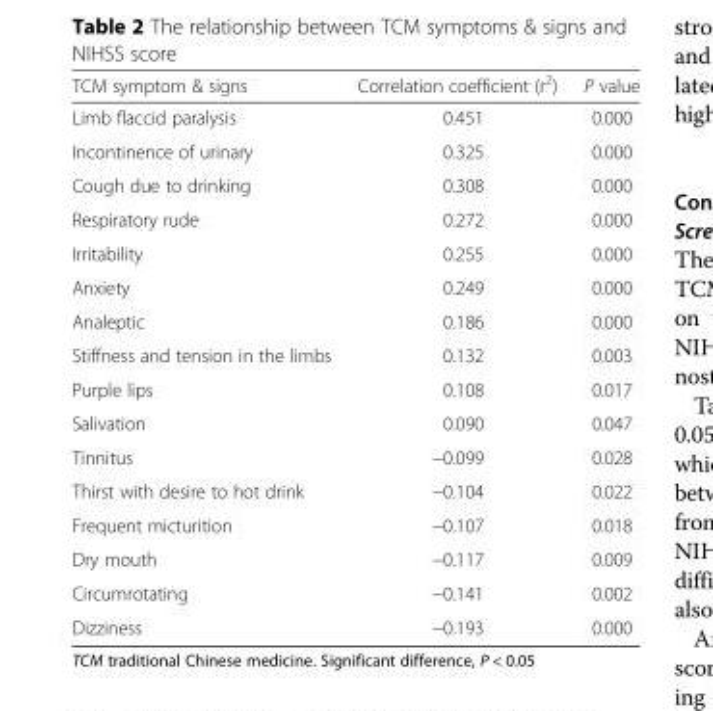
<table><thead><tr><td>TCM symptom &amp; signs</td><td>Correlation coefficient (r<sup>2</sup>)</td><td>P value</td></tr></thead><tbody><tr><td>Limb flaccid paralysis</td><td>0.451</td><td>0.000</td></tr><tr><td>Incontinence of urinary</td><td>0.325</td><td>0.000</td></tr><tr><td>Cough due to drinking</td><td>0.308</td><td>0.000</td></tr><tr><td>Respiratory rude</td><td>0.272</td><td>0.000</td></tr><tr><td>Irritability</td><td>0.255</td><td>0.000</td></tr><tr><td>Anxiety</td><td>0.249</td><td>0.000</td></tr><tr><td>Analeptic</td><td>0.186</td><td>0.000</td></tr><tr><td>Stiffness and tension in the limbs</td><td>0.132</td><td>0.003</td></tr><tr><td>Purple lips</td><td>0.108</td><td>0.017</td></tr><tr><td>Salivation</td><td>0.090</td><td>0.047</td></tr><tr><td>Tinnitus</td><td>−0.099</td><td>0.028</td></tr><tr><td>Thirst with desire to hot drink</td><td>−0.104</td><td>0.022</td></tr><tr><td>Frequent micturition</td><td>−0.107</td><td>0.018</td></tr><tr><td>Dry mouth</td><td>−0.117</td><td>0.009</td></tr><tr><td>Circumrotating</td><td>−0.141</td><td>0.002</td></tr><tr><td>Dizziness</td><td>−0.193</td><td>0.000</td></tr></tbody></table>